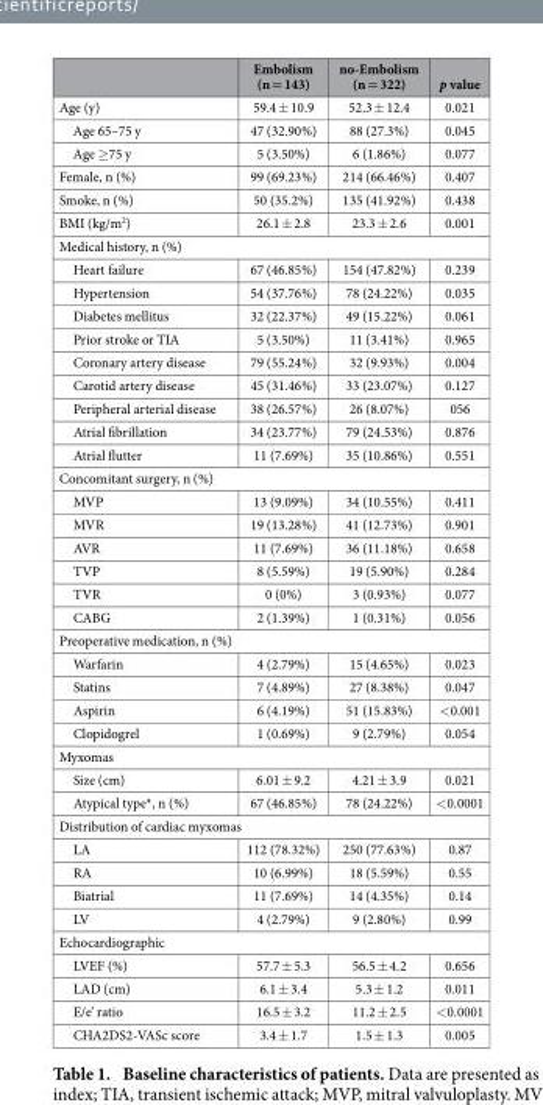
<table><thead><tr><td></td><td>Embolism (n = 143)</td><td>no-Embolism (n = 322)</td><td>p value</td></tr></thead><tbody><tr><td>Age (y)</td><td>59.4 ± 10.9</td><td>52.3 ± 12.4</td><td>0.021</td></tr><tr><td>Age 65–75 y</td><td>47 (32.90%)</td><td>88 (27.3%)</td><td>0.045</td></tr><tr><td>Age ≥ 75 y</td><td>5 (3.50%)</td><td>6 (1.86%)</td><td>0.077</td></tr><tr><td>Female, n (%)</td><td>99 (69.23%)</td><td>214 (66.46%)</td><td>0.407</td></tr><tr><td>Smoke, n (%)</td><td>50 (35.2%)</td><td>135 (41.92%)</td><td>0.438</td></tr><tr><td>BMI (kg/m<sup>2</sup>)</td><td>26.1 ± 2.8</td><td>23.3 ± 2.6</td><td>0.001</td></tr><tr><td colspan="4">Medical history, n (%)</td></tr><tr><td>Heart failure</td><td>67 (46.85%)</td><td>154 (47.82%)</td><td>0.239</td></tr><tr><td>Hypertension</td><td>54 (37.76%)</td><td>78 (24.22%)</td><td>0.035</td></tr><tr><td>Diabetes mellitus</td><td>32 (22.37%)</td><td>49 (15.22%)</td><td>0.061</td></tr><tr><td>Prior stroke or TIA</td><td>5 (3.50%)</td><td>11 (3.41%)</td><td>0.965</td></tr><tr><td>Coronary artery disease</td><td>79 (55.24%)</td><td>32 (9.93%)</td><td>0.004</td></tr><tr><td>Carotid artery disease</td><td>45 (31.46%)</td><td>33 (23.07%)</td><td>0.127</td></tr><tr><td>Peripheral arterial disease</td><td>38 (26.57%)</td><td>26 (8.07%)</td><td>056</td></tr><tr><td>Atrial fibrillation</td><td>34 (23.77%)</td><td>79 (24.53%)</td><td>0.876</td></tr><tr><td>Atrial flutter</td><td>11 (7.69%)</td><td>35 (10.86%)</td><td>0.551</td></tr><tr><td colspan="4">Concomitant surgery, n (%)</td></tr><tr><td>MVP</td><td>13 (9.09%)</td><td>34 (10.55%)</td><td>0.411</td></tr><tr><td>MVR</td><td>19 (13.28%)</td><td>41 (12.73%)</td><td>0.901</td></tr><tr><td>AVR</td><td>11 (7.69%)</td><td>36 (11.18%)</td><td>0.658</td></tr><tr><td>TVP</td><td>8 (5.59%)</td><td>19 (5.90%)</td><td>0.284</td></tr><tr><td>TVR</td><td>0 (0%)</td><td>3 (0.93%)</td><td>0.077</td></tr><tr><td>CABG</td><td>2 (1.39%)</td><td>1 (0.31%)</td><td>0.056</td></tr><tr><td colspan="4">Preoperative medication, n (%)</td></tr><tr><td>Warfarin</td><td>4 (2.79%)</td><td>15 (4.65%)</td><td>0.023</td></tr><tr><td>Statins</td><td>7 (4.89%)</td><td>27 (8.38%)</td><td>0.047</td></tr><tr><td>Aspirin</td><td>6 (4.19%)</td><td>51 (15.83%)</td><td>&lt; 0.001</td></tr><tr><td>Clopidogrel</td><td>1 (0.69%)</td><td>9 (2.79%)</td><td>0.054</td></tr><tr><td colspan="4">Myxomas</td></tr><tr><td>Size (cm)</td><td>6.01 ± 9.2</td><td>4.21 ± 3.9</td><td>0.021</td></tr><tr><td>Atypical type*, n (%)</td><td>67 (46.85%)</td><td>78 (24.22%)</td><td>&lt; 0.0001</td></tr><tr><td colspan="4">Distribution of cardiac myxomas</td></tr><tr><td>LA</td><td>112 (78.32%)</td><td>250 (77.63%)</td><td>0.87</td></tr><tr><td>RA</td><td>10 (6.99%)</td><td>18 (5.59%)</td><td>0.55</td></tr><tr><td>Biatrial</td><td>11 (7.69%)</td><td>14 (4.35%)</td><td>0.14</td></tr><tr><td>LV</td><td>4 (2.79%)</td><td>9 (2.80%)</td><td>0.99</td></tr><tr><td colspan="4">Echocardiographic</td></tr><tr><td>LVEF (%)</td><td>57.7 ± 5.3</td><td>56.5 ± 4.2</td><td>0.656</td></tr><tr><td>LAD (cm)</td><td>6.1 ± 3.4</td><td>5.3 ± 1.2</td><td>0.011</td></tr><tr><td>E/e’ ratio</td><td>16.5 ± 3.2</td><td>11.2 ± 2.5</td><td>&lt; 0.0001</td></tr><tr><td>CHA2DS2-VASc score</td><td>3.4 ± 1.7</td><td>1.5 ± 1.3</td><td>0.005</td></tr></tbody></table>